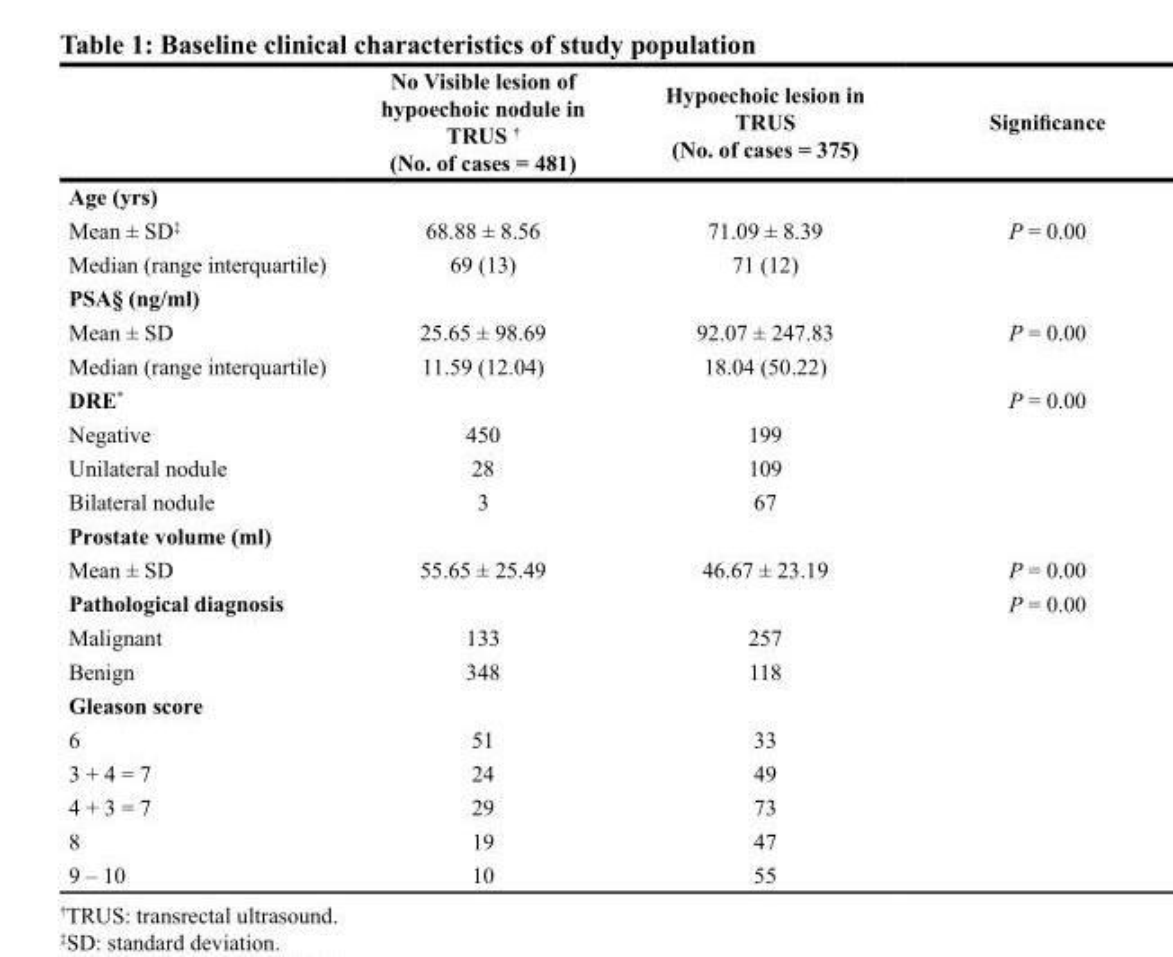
<table><thead><tr><td></td><td>No Visible lesion of hypoechoic nodule in TRUS <sup>†</sup> (No. of cases = 481)</td><td>Hypoechoic lesion in TRUS (No. of cases = 375)</td><td>Significance</td></tr></thead><tbody><tr><td colspan="4">Age (yrs)</td></tr><tr><td>Mean ± SD<sup>‡</sup></td><td>68.88 ± 8.56</td><td>71.09 ± 8.39</td><td>P = 0.00</td></tr><tr><td>Median (range interquartile)</td><td>69 (13)</td><td>71 (12)</td><td></td></tr><tr><td colspan="4">PSA§ (ng/ml)</td></tr><tr><td>Mean ± SD</td><td>25.65 ± 98.69</td><td>92.07 ± 247.83</td><td>P = 0.00</td></tr><tr><td>Median (range interquartile)</td><td>11.59 (12.04)</td><td>18.04 (50.22)</td><td></td></tr><tr><td>DRE*</td><td></td><td></td><td>P = 0.00</td></tr><tr><td>Negative</td><td>450</td><td>199</td><td></td></tr><tr><td>Unilateral nodule</td><td>28</td><td>109</td><td></td></tr><tr><td>Bilateral nodule</td><td>3</td><td>67</td><td></td></tr><tr><td colspan="4">Prostate volume (ml)</td></tr><tr><td>Mean ± SD</td><td>55.65 ± 25.49</td><td>46.67 ± 23.19</td><td>P = 0.00</td></tr><tr><td>Pathological diagnosis</td><td></td><td></td><td>P = 0.00</td></tr><tr><td>Malignant</td><td>133</td><td>257</td><td></td></tr><tr><td>Benign</td><td>348</td><td>118</td><td></td></tr><tr><td colspan="4">Gleason score</td></tr><tr><td>6</td><td>51</td><td>33</td><td></td></tr><tr><td>3 + 4 = 7</td><td>24</td><td>49</td><td></td></tr><tr><td>4 + 3 = 7</td><td>29</td><td>73</td><td></td></tr><tr><td>8</td><td>19</td><td>47</td><td></td></tr><tr><td>9 – 10</td><td>10</td><td>55</td><td></td></tr></tbody></table>